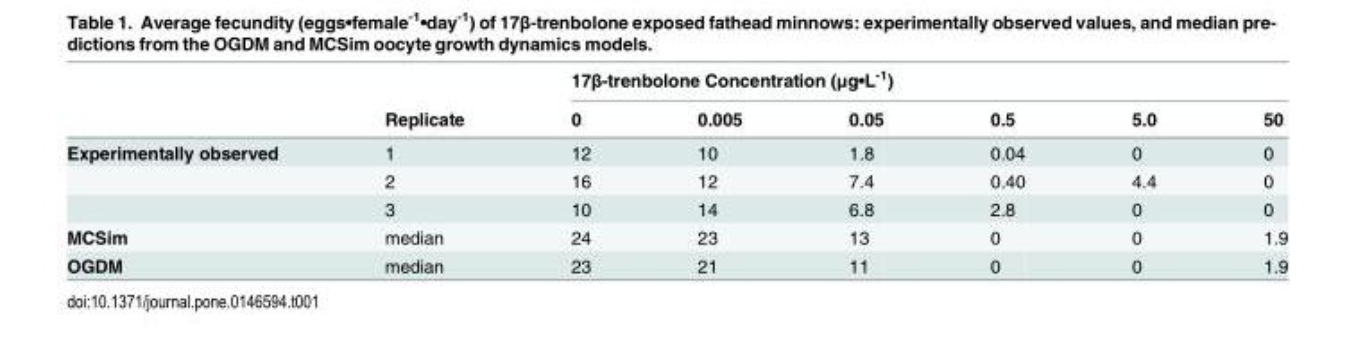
<table><thead><tr><td rowspan="2"></td><td rowspan="2">Replicate</td><td colspan="6">17β-trenbolone Concentration (μg•L<sup>-1</sup>)</td></tr><tr><td>0</td><td>0.005</td><td>0.05</td><td>0.5</td><td>5.0</td><td>50</td></tr></thead><tbody><tr><td rowspan="3">Experimentally observed</td><td>1</td><td>12</td><td>10</td><td>1.8</td><td>0.04</td><td>0</td><td>0</td></tr><tr><td>2</td><td>16</td><td>12</td><td>7.4</td><td>0.40</td><td>4.4</td><td>0</td></tr><tr><td>3</td><td>10</td><td>14</td><td>6.8</td><td>2.8</td><td>0</td><td>0</td></tr><tr><td>MCSim</td><td>median</td><td>24</td><td>23</td><td>13</td><td>0</td><td>0</td><td>1.9</td></tr><tr><td>OGDM</td><td>median</td><td>23</td><td>21</td><td>11</td><td>0</td><td>0</td><td>1.9</td></tr></tbody></table>